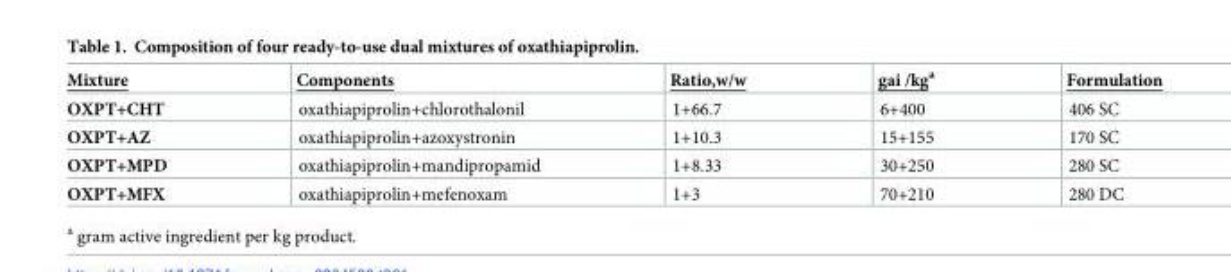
<table><thead><tr><td>Mixture</td><td>Components</td><td>Ratio,w/w</td><td>gai /kg<sup>a</sup></td><td>Formulation</td></tr></thead><tbody><tr><td>OXPT+CHT</td><td>oxathiapiprolin+chlorothalonil</td><td>1+66.7</td><td>6+400</td><td>406 SC</td></tr><tr><td>OXPT+AZ</td><td>oxathiapiprolin+azoxystronin</td><td>1+10.3</td><td>15+155</td><td>170 SC</td></tr><tr><td>OXPT+MPD</td><td>oxathiapiprolin+mandipropamid</td><td>1+8.33</td><td>30+250</td><td>280 SC</td></tr><tr><td>OXPT+MFX</td><td>oxathiapiprolin+mefenoxam</td><td>1+3</td><td>70+210</td><td>280 DC</td></tr></tbody></table>